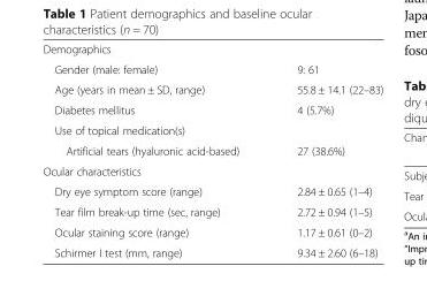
<table><tbody><tr><td colspan="2">Demographics</td></tr><tr><td>Gender (male: female)</td><td>9: 61</td></tr><tr><td>Age (years in mean ± SD, range)</td><td>55.8 ± 14.1 (22–83)</td></tr><tr><td>Diabetes mellitus</td><td>4 (5.7%)</td></tr><tr><td colspan="2">Use of topical medication(s)</td></tr><tr><td>Artificial tears (hyaluronic acid-based)</td><td>27 (38.6%)</td></tr><tr><td colspan="2">Ocular characteristics</td></tr><tr><td>Dry eye symptom score (range)</td><td>2.84 ± 0.65 (1–4)</td></tr><tr><td>Tear film break-up time (sec, range)</td><td>2.72 ± 0.94 (1–5)</td></tr><tr><td>Ocular staining score (range)</td><td>1.17 ± 0.61 (0–2)</td></tr><tr><td>Schirmer I test (mm, range)</td><td>9.34 ± 2.60 (6–18)</td></tr></tbody></table>